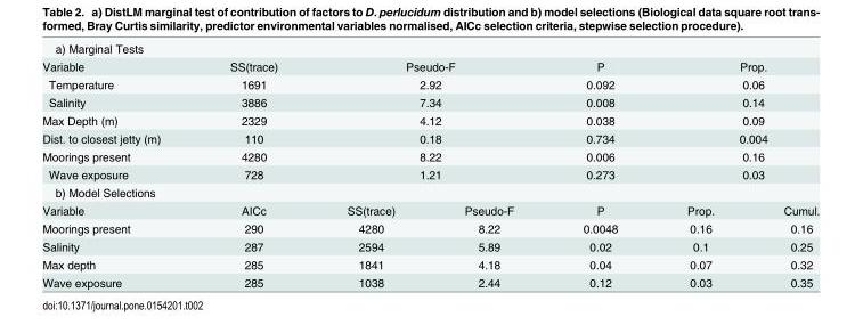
<table><tbody><tr><td colspan="7">a) Marginal Tests</td></tr><tr><td>Variable</td><td>SS(trace)</td><td colspan="2">Pseudo-F</td><td>P</td><td colspan="2">Prop.</td></tr><tr><td>Temperature</td><td>1691</td><td colspan="2">2.92</td><td>0.092</td><td colspan="2">0.06</td></tr><tr><td>Salinity</td><td>3886</td><td colspan="2">7.34</td><td>0.008</td><td colspan="2">0.14</td></tr><tr><td>Max Depth (m)</td><td>2329</td><td colspan="2">4.12</td><td>0.038</td><td colspan="2">0.09</td></tr><tr><td>Dist. to closest jetty (m)</td><td>110</td><td colspan="2">0.18</td><td>0.734</td><td colspan="2">0.004</td></tr><tr><td>Moorings present</td><td>4280</td><td colspan="2">8.22</td><td>0.006</td><td colspan="2">0.16</td></tr><tr><td>Wave exposure</td><td>728</td><td colspan="2">1.21</td><td>0.273</td><td colspan="2">0.03</td></tr><tr><td colspan="7">b) Model Selections</td></tr><tr><td>Variable</td><td>AICc</td><td>SS(trace)</td><td>Pseudo-F</td><td>P</td><td>Prop.</td><td>Cumul.</td></tr><tr><td>Moorings present</td><td>290</td><td>4280</td><td>8.22</td><td>0.0048</td><td>0.16</td><td>0.16</td></tr><tr><td>Salinity</td><td>287</td><td>2594</td><td>5.89</td><td>0.02</td><td>0.1</td><td>0.25</td></tr><tr><td>Max depth</td><td>285</td><td>1841</td><td>4.18</td><td>0.04</td><td>0.07</td><td>0.32</td></tr><tr><td>Wave exposure</td><td>285</td><td>1038</td><td>2.44</td><td>0.12</td><td>0.03</td><td>0.35</td></tr></tbody></table>